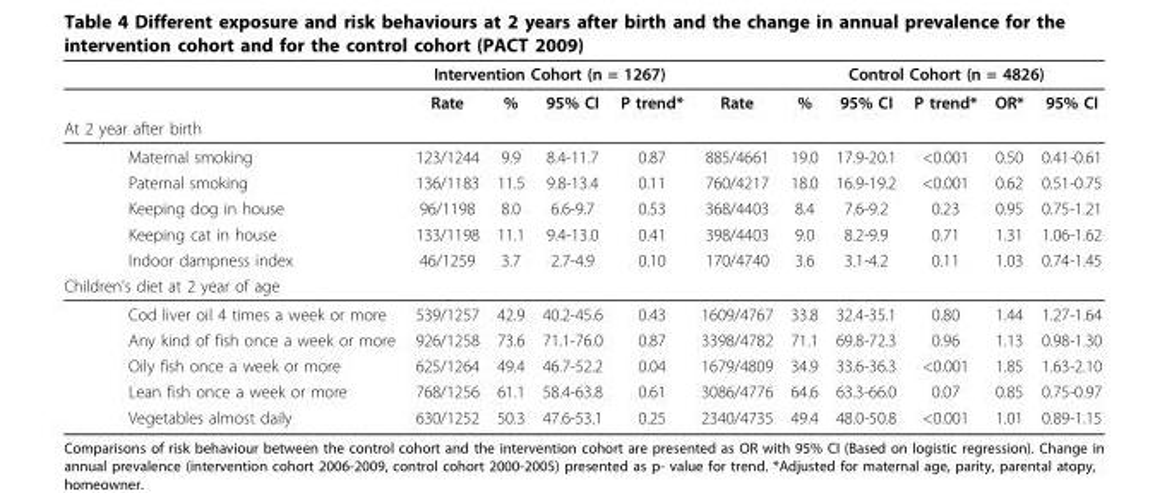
<table><thead><tr><td rowspan="2"></td><td colspan="4">Intervention Cohort (n = 1267)</td><td rowspan="2">Rate</td><td colspan="5">Control Cohort (n = 4826)</td></tr><tr><td>Rate</td><td>%</td><td>95% CI</td><td>P trend*</td><td>%</td><td>95% CI</td><td>P trend*</td><td>OR*</td><td>95% CI</td></tr></thead><tbody><tr><td colspan="11">At 2 year after birth</td></tr><tr><td>Maternal smoking</td><td>123/1244</td><td>9.9</td><td>8.4-11.7</td><td>0.87</td><td>885/4661</td><td>19.0</td><td>17.9-20.1</td><td>&lt;0.001</td><td>0.50</td><td>0.41-0.61</td></tr><tr><td>Paternal smoking</td><td>136/1183</td><td>11.5</td><td>9.8-13.4</td><td>0.11</td><td>760/4217</td><td>18.0</td><td>16.9-19.2</td><td>&lt;0.001</td><td>0.62</td><td>0.51-0.75</td></tr><tr><td>Keeping dog in house</td><td>96/1198</td><td>8.0</td><td>6.6-9.7</td><td>0.53</td><td>368/4403</td><td>8.4</td><td>7.6-9.2</td><td>0.23</td><td>0.95</td><td>0.75-1.21</td></tr><tr><td>Keeping cat in house</td><td>133/1198</td><td>11.1</td><td>9.4-13.0</td><td>0.41</td><td>398/4403</td><td>9.0</td><td>8.2-9.9</td><td>0.71</td><td>1.31</td><td>1.06-1.62</td></tr><tr><td>Indoor dampness index</td><td>46/1259</td><td>3.7</td><td>2.7-4.9</td><td>0.10</td><td>170/4740</td><td>3.6</td><td>3.1-4.2</td><td>0.11</td><td>1.03</td><td>0.74-1.45</td></tr><tr><td colspan="11">Children’s diet at 2 year of age</td></tr><tr><td>Cod liver oil 4 times a week or more</td><td>539/1257</td><td>42.9</td><td>40.2-45.6</td><td>0.43</td><td>1609/4767</td><td>33.8</td><td>32.4-35.1</td><td>0.80</td><td>1.44</td><td>1.27-1.64</td></tr><tr><td>Any kind of fish once a week or more</td><td>926/1258</td><td>73.6</td><td>71.1-76.0</td><td>0.87</td><td>3398/4782</td><td>71.1</td><td>69.8-72.3</td><td>0.96</td><td>1.13</td><td>0.98-1.30</td></tr><tr><td>Oily fish once a week or more</td><td>625/1264</td><td>49.4</td><td>46.7-52.2</td><td>0.04</td><td>1679/4809</td><td>34.9</td><td>33.6-36.3</td><td>&lt;0.001</td><td>1.85</td><td>1.63-2.10</td></tr><tr><td>Lean fish once a week or more</td><td>768/1256</td><td>61.1</td><td>58.4-63.8</td><td>0.61</td><td>3086/4776</td><td>64.6</td><td>63.3-66.0</td><td>0.07</td><td>0.85</td><td>0.75-0.97</td></tr><tr><td>Vegetables almost daily</td><td>630/1252</td><td>50.3</td><td>47.6-53.1</td><td>0.25</td><td>2340/4735</td><td>49.4</td><td>48.0-50.8</td><td>&lt;0.001</td><td>1.01</td><td>0.89-1.15</td></tr></tbody></table>